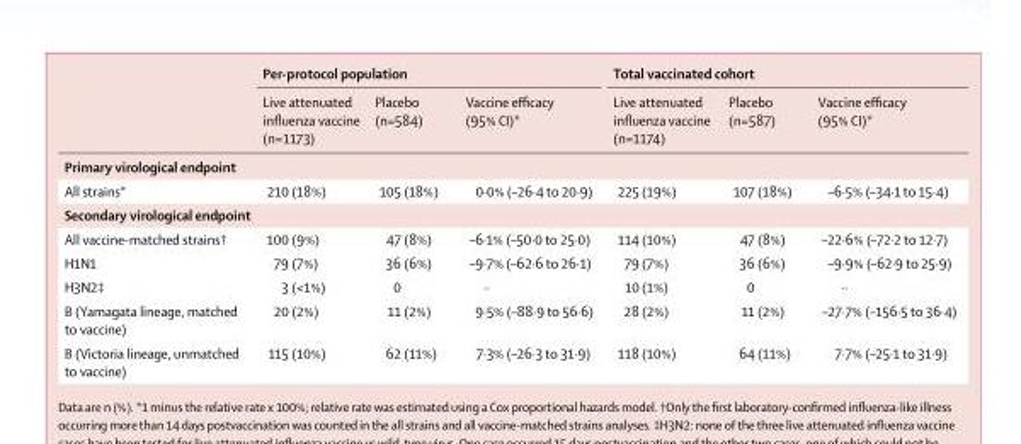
<table><thead><tr><td rowspan="2"></td><td colspan="3">Per-protocol population</td><td colspan="3">Total vaccinated cohort</td></tr><tr><td>Live attenuated infl uenza vaccine (n=1173)</td><td>Placebo (n=584)</td><td>Vaccine effi cacy (95% CI)*</td><td>Live attenuated infl uenza vaccine (n=1174)</td><td>Placebo (n=587)</td><td>Vaccine effi cacy (95% CI)*</td></tr></thead><tbody><tr><td colspan="7">Primary virological endpoint</td></tr><tr><td>All strains*</td><td>210 (18%)</td><td>105 (18%)</td><td>0·0% (–26·4 to 20·9)</td><td>225 (19%)</td><td>107 (18%)</td><td>–6·5% (–34·1 to 15·4)</td></tr><tr><td colspan="7">Secondary virological endpoint</td></tr><tr><td>All vaccine-matched strains†</td><td>100 (9%)</td><td>47 (8%)</td><td>–6·1% (–50·0 to 25·0)</td><td>114 (10%)</td><td>47 (8%)</td><td>–22·6% (–72·2 to 12·7)</td></tr><tr><td>H1N1</td><td>79 (7%)</td><td>36 (6%)</td><td>–9·7% (–62·6 to 26·1)</td><td>79 (7%)</td><td>36 (6%)</td><td>–9·9% (–62·9 to 25·9)</td></tr><tr><td>H3N2‡</td><td>3 (&lt;1%)</td><td>0</td><td>··</td><td>10 (1%)</td><td>0</td><td>··</td></tr><tr><td>B (Yamagata lineage, matched to vaccine)</td><td>20 (2%)</td><td>11 (2%)</td><td>9·5% (–88·9 to 56·6)</td><td>28 (2%)</td><td>11 (2%)</td><td>–27·7% (–156·5 to 36·4)</td></tr><tr><td>B (Victoria lineage, unmatched to vaccine)</td><td>115 (10%)</td><td>62 (11%)</td><td>7·3% (–26·3 to 31·9)</td><td>118 (10%)</td><td>64 (11%)</td><td>7·7% (–25·1 to 31·9)</td></tr></tbody></table>